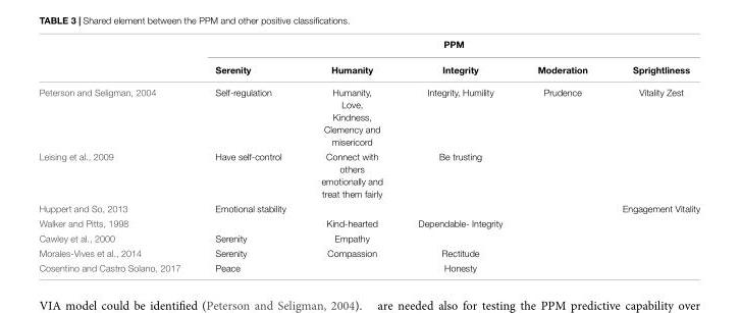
<table><thead><tr><td rowspan="2"></td><td colspan="5">PPM</td></tr><tr><td>Serenity</td><td>Humanity</td><td>Integrity</td><td>Moderation</td><td>Sprightliness</td></tr></thead><tbody><tr><td>Peterson and Seligman, 2004</td><td>Self-regulation</td><td>Humanity, Love, Kindness, Clemency and misericord</td><td>Integrity, Humility</td><td>Prudence</td><td>Vitality Zest</td></tr><tr><td>Leising et al., 2009</td><td>Have self-control</td><td>Connect with others emotionally and treat them fairly</td><td>Be trusting</td><td></td><td></td></tr><tr><td>Huppert and So, 2013</td><td>Emotional stability</td><td></td><td></td><td></td><td>Engagement Vitality</td></tr><tr><td>Walker and Pitts, 1998</td><td></td><td>Kind-hearted</td><td>Dependable- Integrity</td><td></td><td></td></tr><tr><td>Cawley et al., 2000</td><td>Serenity</td><td>Empathy</td><td></td><td></td><td></td></tr><tr><td>Morales-Vives et al., 2014</td><td>Serenity</td><td>Compassion</td><td>Rectitude</td><td></td><td></td></tr><tr><td>Cosentino and Castro Solano, 2017</td><td>Peace</td><td></td><td>Honesty</td><td></td><td></td></tr></tbody></table>